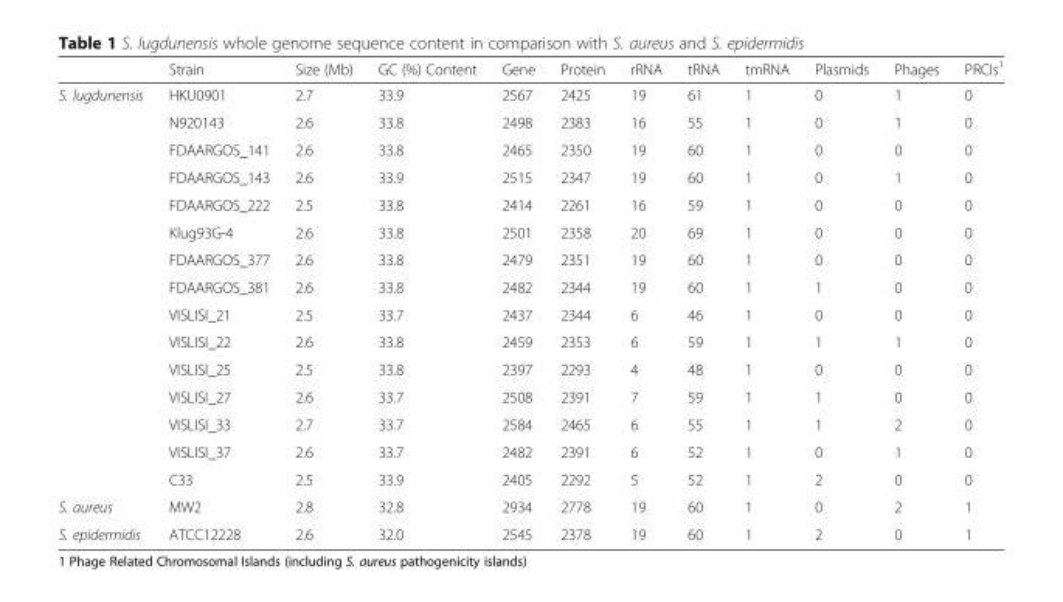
<table><thead><tr><td></td><td>Strain</td><td>Size (Mb)</td><td>GC (%) Content</td><td>Gene</td><td>Protein</td><td>rRNA</td><td>tRNA</td><td>tmRNA</td><td>Plasmids</td><td>Phages</td><td>PRCIs<sup>1</sup></td></tr></thead><tbody><tr><td rowspan="15">S. lugdunensis</td><td>HKU0901</td><td>2.7</td><td>33.9</td><td>2567</td><td>2425</td><td>19</td><td>61</td><td>1</td><td>0</td><td>1</td><td>0</td></tr><tr><td>N920143</td><td>2.6</td><td>33.8</td><td>2498</td><td>2383</td><td>16</td><td>55</td><td>1</td><td>0</td><td>1</td><td>0</td></tr><tr><td>FDAARGOS_141</td><td>2.6</td><td>33.8</td><td>2465</td><td>2350</td><td>19</td><td>60</td><td>1</td><td>0</td><td>0</td><td>0</td></tr><tr><td>FDAARGOS_143</td><td>2.6</td><td>33.9</td><td>2515</td><td>2347</td><td>19</td><td>60</td><td>1</td><td>0</td><td>1</td><td>0</td></tr><tr><td>FDAARGOS_222</td><td>2.5</td><td>33.8</td><td>2414</td><td>2261</td><td>16</td><td>59</td><td>1</td><td>0</td><td>0</td><td>0</td></tr><tr><td>Klug93G-4</td><td>2.6</td><td>33.8</td><td>2501</td><td>2358</td><td>20</td><td>69</td><td>1</td><td>0</td><td>0</td><td>0</td></tr><tr><td>FDAARGOS_377</td><td>2.6</td><td>33.8</td><td>2479</td><td>2351</td><td>19</td><td>60</td><td>1</td><td>0</td><td>0</td><td>0</td></tr><tr><td>FDAARGOS_381</td><td>2.6</td><td>33.8</td><td>2482</td><td>2344</td><td>19</td><td>60</td><td>1</td><td>1</td><td>0</td><td>0</td></tr><tr><td>VISLISI_21</td><td>2.5</td><td>33.7</td><td>2437</td><td>2344</td><td>6</td><td>46</td><td>1</td><td>0</td><td>0</td><td>0</td></tr><tr><td>VISLISI_22</td><td>2.6</td><td>33.8</td><td>2459</td><td>2353</td><td>6</td><td>59</td><td>1</td><td>1</td><td>1</td><td>0</td></tr><tr><td>VISLISI_25</td><td>2.5</td><td>33.8</td><td>2397</td><td>2293</td><td>4</td><td>48</td><td>1</td><td>0</td><td>0</td><td>0</td></tr><tr><td>VISLISI_27</td><td>2.6</td><td>33.7</td><td>2508</td><td>2391</td><td>7</td><td>59</td><td>1</td><td>1</td><td>0</td><td>0</td></tr><tr><td>VISLISI_33</td><td>2.7</td><td>33.7</td><td>2584</td><td>2465</td><td>6</td><td>55</td><td>1</td><td>1</td><td>2</td><td>0</td></tr><tr><td>VISLISI_37</td><td>2.6</td><td>33.7</td><td>2482</td><td>2391</td><td>6</td><td>52</td><td>1</td><td>0</td><td>1</td><td>0</td></tr><tr><td>C33</td><td>2.5</td><td>33.9</td><td>2405</td><td>2292</td><td>5</td><td>52</td><td>1</td><td>2</td><td>0</td><td>0</td></tr><tr><td>S. aureus</td><td>MW2</td><td>2.8</td><td>32.8</td><td>2934</td><td>2778</td><td>19</td><td>60</td><td>1</td><td>0</td><td>2</td><td>1</td></tr><tr><td>S. epidermidis</td><td>ATCC12228</td><td>2.6</td><td>32.0</td><td>2545</td><td>2378</td><td>19</td><td>60</td><td>1</td><td>2</td><td>0</td><td>1</td></tr></tbody></table>